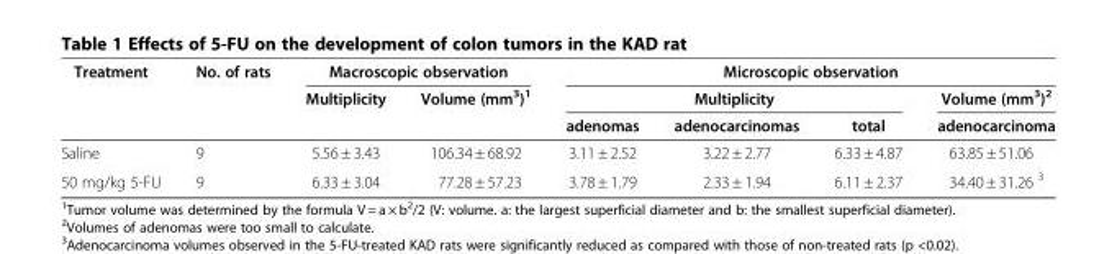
<table><thead><tr><td rowspan="3">Treatment</td><td rowspan="3">No. of rats</td><td colspan="2">Macroscopic observation</td><td colspan="4">Microscopic observation</td></tr><tr><td rowspan="2">Multiplicity</td><td rowspan="2">Volume (mm<sup>3</sup>)<sup>1</sup></td><td colspan="3">Multiplicity</td><td rowspan="2">Volume (mm<sup>3</sup>)<sup>2</sup> adenocarcinoma</td></tr><tr><td>adenomas</td><td>adenocarcinomas</td><td>total</td></tr></thead><tbody><tr><td>Saline</td><td>9</td><td>5.56 ± 3.43</td><td>106.34 ± 68.92</td><td>3.11 ± 2.52</td><td>3.22 ± 2.77</td><td>6.33 ± 4.87</td><td>63.85 ± 51.06</td></tr><tr><td>50 mg/kg 5-FU</td><td>9</td><td>6.33 ± 3.04</td><td>77.28 ± 57.23</td><td>3.78 ± 1.79</td><td>2.33 ± 1.94</td><td>6.11 ± 2.37</td><td>34.40 ± 31.26 <sup>3</sup></td></tr></tbody></table>